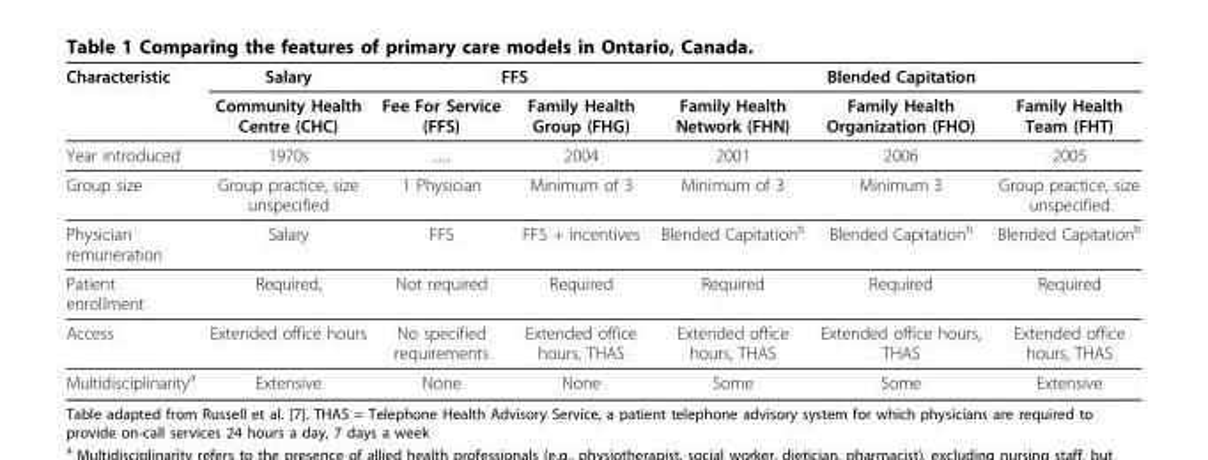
<table><thead><tr><td rowspan="2">Characteristic</td><td rowspan="2">Salary Community Health Centre (CHC)</td><td colspan="2">FFS</td><td colspan="3">Blended Capitation</td></tr><tr><td>Fee For Service (FFS)</td><td>Family Health Group (FHG)</td><td>Family Health Network (FHN)</td><td>Family Health Organization (FHO)</td><td>Family Health Team (FHT)</td></tr></thead><tbody><tr><td>Year introduced</td><td>1970s</td><td>......</td><td>2004</td><td>2001</td><td>2006</td><td>2005</td></tr><tr><td>Group size</td><td>Group practice, size unspecified</td><td>1 Physician</td><td>Minimum of 3</td><td>Minimum of 3</td><td>Minimum 3</td><td>Group practice, size unspecified</td></tr><tr><td>Physician remuneration</td><td>Salary</td><td>FFS</td><td>FFS + incentives</td><td>Blended Capitation<sup>b</sup></td><td>Blended Capitation<sup>b</sup></td><td>Blended Capitation<sup>b</sup></td></tr><tr><td>Patient enrollment</td><td>Required,</td><td>Not required</td><td>Required</td><td>Required</td><td>Required</td><td>Required</td></tr><tr><td>Access</td><td>Extended office hours</td><td>No specified requirements</td><td>Extended office hours, THAS</td><td>Extended office hours, THAS</td><td>Extended office hours, THAS</td><td>Extended office hours, THAS</td></tr><tr><td>Multidisciplinarity<sup>a</sup></td><td>Extensive</td><td>None</td><td>None</td><td>Some</td><td>Some</td><td>Extensive</td></tr></tbody></table>